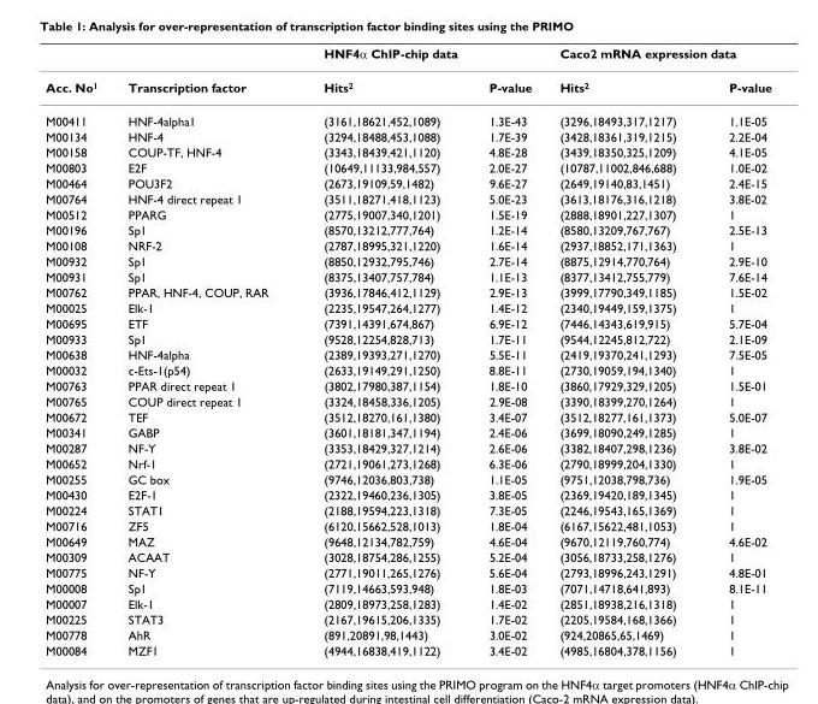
<table><thead><tr><td rowspan="2">Acc. No<sup>1</sup></td><td rowspan="2">Transcription factor</td><td colspan="2">HNF4α ChIP-chip data</td><td colspan="2">Caco2 mRNA expression data</td></tr><tr><td>Hits<sup>2</sup></td><td>P-value</td><td>Hits<sup>2</sup></td><td>P-value</td></tr></thead><tbody><tr><td>M00411</td><td>HNF-4alpha1</td><td>(3161,18621,452,1089)</td><td>1.3E-43</td><td>(3296,18493,317,1217)</td><td>1.1E-05</td></tr><tr><td>M00134</td><td>HNF-4</td><td>(3294,18488,453,1088)</td><td>1.7E-39</td><td>(3428,18361,319,1215)</td><td>2.2E-04</td></tr><tr><td>M00158</td><td>COUP-TF, HNF-4</td><td>(3343,18439,421,1120)</td><td>4.8E-28</td><td>(3439,18350,325,1209)</td><td>4.1E-05</td></tr><tr><td>M00803</td><td>E2F</td><td>(10649,11133,984,557)</td><td>2.0E-27</td><td>(10787,11002,846,688)</td><td>1.0E-02</td></tr><tr><td>M00464</td><td>POU3F2</td><td>(2673,19109,59,1482)</td><td>9.6E-27</td><td>(2649,19140,83,1451)</td><td>2.4E-15</td></tr><tr><td>M00764</td><td>HNF-4 direct repeat 1</td><td>(3511,18271,418,1123)</td><td>5.0E-23</td><td>(3613,18176,316,1218)</td><td>3.8E-02</td></tr><tr><td>M00512</td><td>PPARG</td><td>(2775,19007,340,1201)</td><td>1.5E-19</td><td>(2888,18901,227,1307)</td><td>1</td></tr><tr><td>M00196</td><td>Sp1</td><td>(8570,13212,777,764)</td><td>1.2E-14</td><td>(8580,13209,767,767)</td><td>2.5E-13</td></tr><tr><td>M00108</td><td>NRF-2</td><td>(2787,18995,321,1220)</td><td>1.6E-14</td><td>(2937,18852,171,1363)</td><td>1</td></tr><tr><td>M00932</td><td>Sp1</td><td>(8850,12932,795,746)</td><td>2.7E-14</td><td>(8875,12914,770,764)</td><td>2.9E-10</td></tr><tr><td>M00931</td><td>Sp1</td><td>(8375,13407,757,784)</td><td>1.1E-13</td><td>(8377,13412,755,779)</td><td>7.6E-14</td></tr><tr><td>M00762</td><td>PPAR, HNF-4, COUP, RAR</td><td>(3936,17846,412,1129)</td><td>2.9E-13</td><td>(3999,17790,349,1185)</td><td>1.5E-02</td></tr><tr><td>M00025</td><td>Elk-1</td><td>(2235,19547,264,1277)</td><td>1.4E-12</td><td>(2340,19449,159,1375)</td><td>1</td></tr><tr><td>M00695</td><td>ETF</td><td>(7391,14391,674,867)</td><td>6.9E-12</td><td>(7446,14343,619,915)</td><td>5.7E-04</td></tr><tr><td>M00933</td><td>Sp1</td><td>(9528,12254,828,713)</td><td>1.7E-11</td><td>(9544,12245,812,722)</td><td>2.1E-09</td></tr><tr><td>M00638</td><td>HNF-4alpha</td><td>(2389,19393,271,1270)</td><td>5.5E-11</td><td>(2419,19370,241,1293)</td><td>7.5E-05</td></tr><tr><td>M00032</td><td>c-Ets-1(p54)</td><td>(2633,19149,291,1250)</td><td>8.8E-11</td><td>(2730,19059,194,1340)</td><td>1</td></tr><tr><td>M00763</td><td>PPAR direct repeat 1</td><td>(3802,17980,387,1154)</td><td>1.8E-10</td><td>(3860,17929,329,1205)</td><td>1.5E-01</td></tr><tr><td>M00765</td><td>COUP direct repeat 1</td><td>(3324,18458,336,1205)</td><td>2.9E-08</td><td>(3390,18399,270,1264)</td><td>1</td></tr><tr><td>M00672</td><td>TEF</td><td>(3512,18270,161,1380)</td><td>3.4E-07</td><td>(3512,18277,161,1373)</td><td>5.0E-07</td></tr><tr><td>M00341</td><td>GABP</td><td>(3601,18181,347,1194)</td><td>2.4E-06</td><td>(3699,18090,249,1285)</td><td>1</td></tr><tr><td>M00287</td><td>NF-Y</td><td>(3353,18429,327,1214)</td><td>2.6E-06</td><td>(3382,18407,298,1236)</td><td>3.8E-02</td></tr><tr><td>M00652</td><td>Nrf-1</td><td>(2721,19061,273,1268)</td><td>6.3E-06</td><td>(2790,18999,204,1330)</td><td>1</td></tr><tr><td>M00255</td><td>GC box</td><td>(9746,12036,803,738)</td><td>1.1E-05</td><td>(9751,12038,798,736)</td><td>1.9E-05</td></tr><tr><td>M00430</td><td>E2F-1</td><td>(2322,19460,236,1305)</td><td>3.8E-05</td><td>(2369,19420,189,1345)</td><td>1</td></tr><tr><td>M00224</td><td>STAT1</td><td>(2188,19594,223,1318)</td><td>7.3E-05</td><td>(2246,19543,165,1369)</td><td>1</td></tr><tr><td>M00716</td><td>ZF5</td><td>(6120,15662,528,1013)</td><td>1.8E-04</td><td>(6167,15622,481,1053)</td><td>1</td></tr><tr><td>M00649</td><td>MAZ</td><td>(9648,12134,782,759)</td><td>4.6E-04</td><td>(9670,12119,760,774)</td><td>4.6E-02</td></tr><tr><td>M00309</td><td>ACAAT</td><td>(3028,18754,286,1255)</td><td>5.2E-04</td><td>(3056,18733,258,1276)</td><td>1</td></tr><tr><td>M00775</td><td>NF-Y</td><td>(2771,19011,265,1276)</td><td>5.6E-04</td><td>(2793,18996,243,1291)</td><td>4.8E-01</td></tr><tr><td>M00008</td><td>Sp1</td><td>(7119,14663,593,948)</td><td>1.8E-03</td><td>(7071,14718,641,893)</td><td>8.1E-11</td></tr><tr><td>M00007</td><td>Elk-1</td><td>(2809,18973,258,1283)</td><td>1.4E-02</td><td>(2851,18938,216,1318)</td><td>1</td></tr><tr><td>M00225</td><td>STAT3</td><td>(2167,19615,206,1335)</td><td>1.7E-02</td><td>(2205,19584,168,1366)</td><td>1</td></tr><tr><td>M00778</td><td>AhR</td><td>(891,20891,98,1443)</td><td>3.0E-02</td><td>(924,20865,65,1469)</td><td>1</td></tr><tr><td>M00084</td><td>MZF1</td><td>(4944,16838,419,1122)</td><td>3.4E-02</td><td>(4985,16804,378,1156)</td><td>1</td></tr></tbody></table>